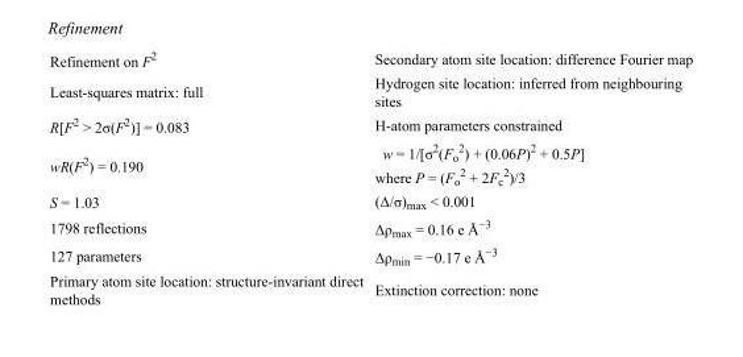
<table><tbody><tr><td>Refinement on F<sup>2</sup></td><td>Secondary atom site location: difference Fourier map</td></tr><tr><td>Least-squares matrix: full</td><td>Hydrogen site location: inferred from neighbouring sites</td></tr><tr><td>R[F<sup>2</sup> &gt; 2σ(F<sup>2</sup>)] = 0.083</td><td>H-atom parameters constrained</td></tr><tr><td>wR(F<sup>2</sup>) = 0.190</td><td>w = 1/[σ<sup>2</sup>(F<sub>o</sub> <sup>2</sup>) + (0.06P)<sup>2</sup> + 0.5P] where P = (F<sub>o</sub> <sup>2</sup> + 2F<sub>c</sub> <sup>2</sup>)/3</td></tr><tr><td>S = 1.03</td><td>(Δ/σ)<sub>max</sub> &lt; 0.001</td></tr><tr><td>1798 reflections</td><td>Δρ<sub>max</sub> = 0.16 e Å<sup>−3</sup></td></tr><tr><td>127 parameters</td><td>Δρ<sub>min</sub> = −0.17 e Å<sup>−3</sup></td></tr><tr><td>Primary atom site location: structure-invariant direct methods</td><td>Extinction correction: none</td></tr></tbody></table>